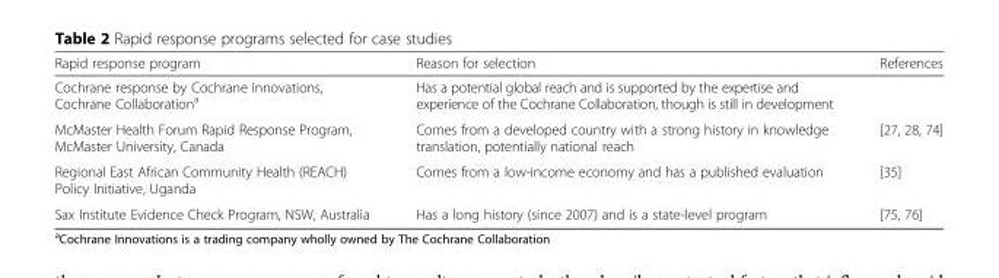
<table><thead><tr><td>Rapid response program</td><td>Reason for selection</td><td>References</td></tr></thead><tbody><tr><td>Cochrane response by Cochrane Innovations, Cochrane Collaboration<sup>a</sup></td><td>Has a potential global reach and is supported by the expertise and experience of the Cochrane Collaboration, though is still in development</td><td></td></tr><tr><td>McMaster Health Forum Rapid Response Program, McMaster University, Canada</td><td>Comes from a developed country with a strong history in knowledge translation, potentially national reach</td><td>[27, 28, 74]</td></tr><tr><td>Regional East African Community Health (REACH) Policy Initiative, Uganda</td><td>Comes from a low-income economy and has a published evaluation</td><td>[35]</td></tr><tr><td>Sax Institute Evidence Check Program, NSW, Australia</td><td>Has a long history (since 2007) and is a state-level program</td><td>[75, 76]</td></tr></tbody></table>